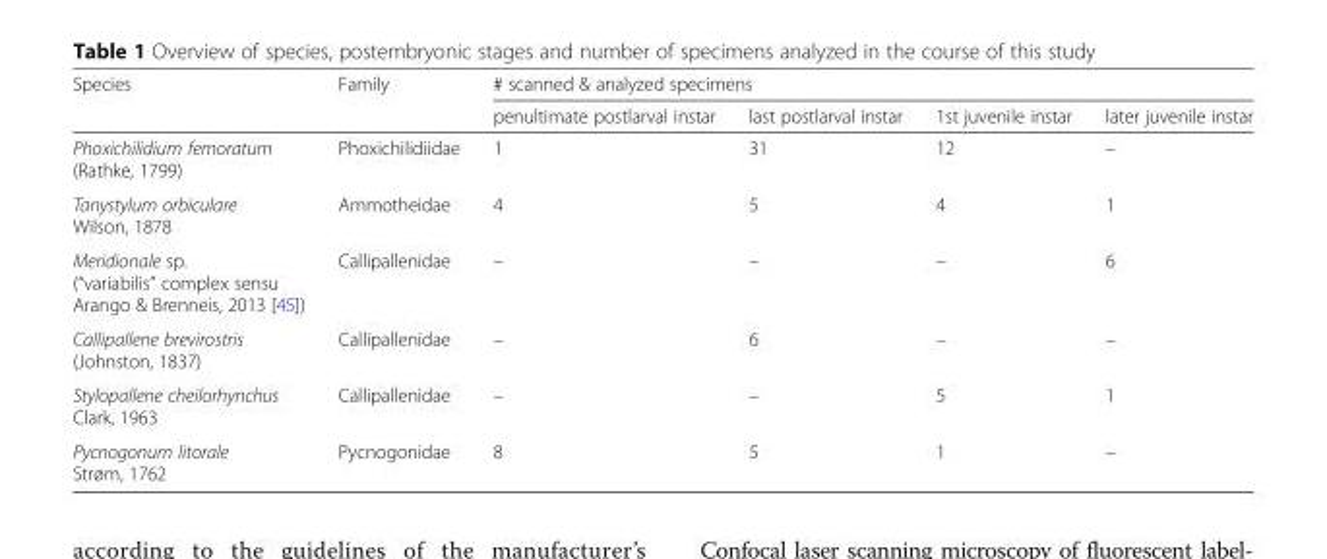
<table><thead><tr><td rowspan="2">Species</td><td rowspan="2">Family</td><td colspan="4"># scanned &amp; analyzed specimens</td></tr><tr><td>penultimate postlarval instar</td><td>last postlarval instar</td><td>1st juvenile instar</td><td>later juvenile instar</td></tr></thead><tbody><tr><td>Phoxichilidium femoratum (Rathke, 1799)</td><td>Phoxichilidiidae</td><td>1</td><td>31</td><td>12</td><td>–</td></tr><tr><td>Tanystylum orbiculare Wilson, 1878</td><td>Ammotheidae</td><td>4</td><td>5</td><td>4</td><td>1</td></tr><tr><td>Meridionale sp. (“variabilis” complex sensu Arango &amp; Brenneis, 2013 [45])</td><td>Callipallenidae</td><td>–</td><td>–</td><td>–</td><td>6</td></tr><tr><td>Callipallene brevirostris (Johnston, 1837)</td><td>Callipallenidae</td><td>–</td><td>6</td><td>–</td><td>–</td></tr><tr><td>Stylopallene cheilorhynchus Clark, 1963</td><td>Callipallenidae</td><td>–</td><td>–</td><td>5</td><td>1</td></tr><tr><td>Pycnogonum litorale Strøm, 1762</td><td>Pycnogonidae</td><td>8</td><td>5</td><td>1</td><td>–</td></tr></tbody></table>